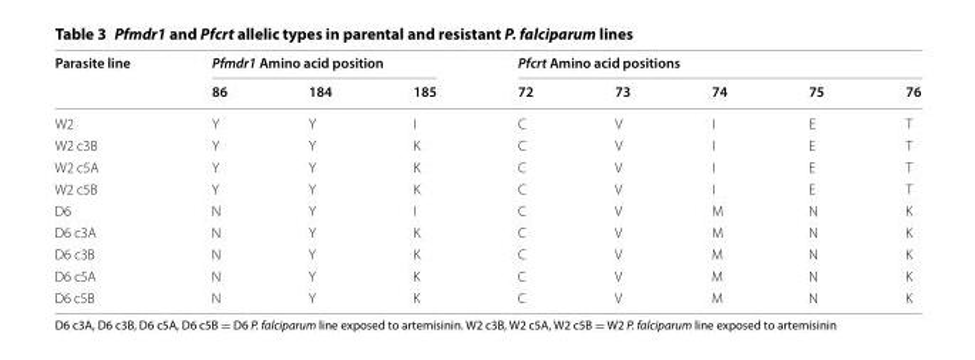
<table><thead><tr><td rowspan="2">Parasite line</td><td colspan="3">Pfmdr1 Amino acid position</td><td colspan="5">Pfcrt Amino acid positions</td></tr><tr><td>86</td><td>184</td><td>185</td><td>72</td><td>73</td><td>74</td><td>75</td><td>76</td></tr></thead><tbody><tr><td>W2</td><td>Y</td><td>Y</td><td>I</td><td>C</td><td>V</td><td>I</td><td>E</td><td>T</td></tr><tr><td>W2 c3B</td><td>Y</td><td>Y</td><td>K</td><td>C</td><td>V</td><td>I</td><td>E</td><td>T</td></tr><tr><td>W2 c5A</td><td>Y</td><td>Y</td><td>K</td><td>C</td><td>V</td><td>I</td><td>E</td><td>T</td></tr><tr><td>W2 c5B</td><td>Y</td><td>Y</td><td>K</td><td>C</td><td>V</td><td>I</td><td>E</td><td>T</td></tr><tr><td>D6</td><td>N</td><td>Y</td><td>I</td><td>C</td><td>V</td><td>M</td><td>N</td><td>K</td></tr><tr><td>D6 c3A</td><td>N</td><td>Y</td><td>K</td><td>C</td><td>V</td><td>M</td><td>N</td><td>K</td></tr><tr><td>D6 c3B</td><td>N</td><td>Y</td><td>K</td><td>C</td><td>V</td><td>M</td><td>N</td><td>K</td></tr><tr><td>D6 c5A</td><td>N</td><td>Y</td><td>K</td><td>C</td><td>V</td><td>M</td><td>N</td><td>K</td></tr><tr><td>D6 c5B</td><td>N</td><td>Y</td><td>K</td><td>C</td><td>V</td><td>M</td><td>N</td><td>K</td></tr></tbody></table>